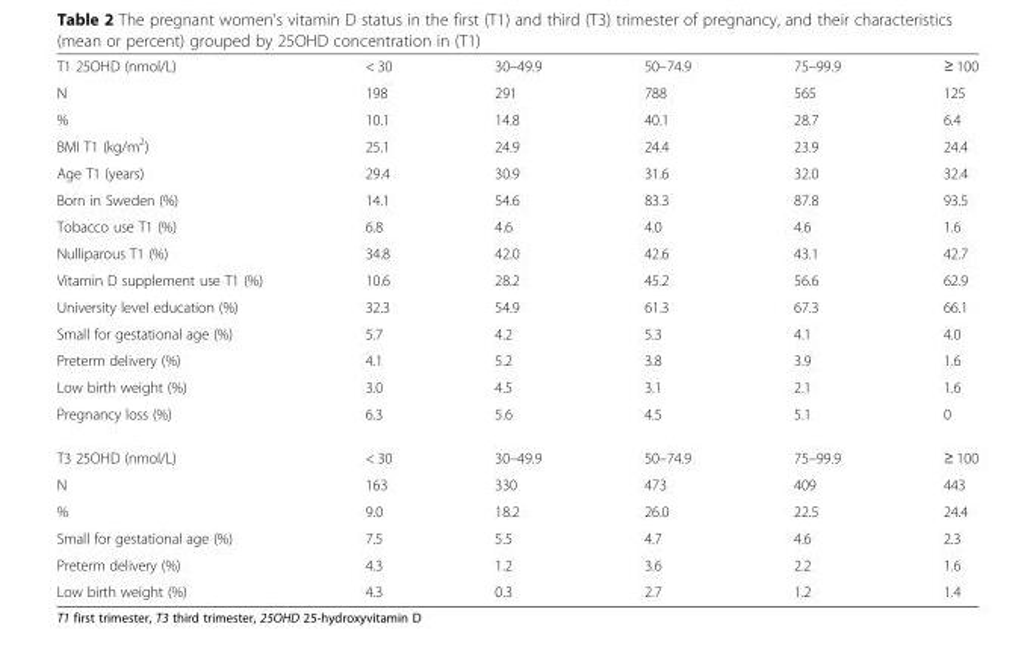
<table><tbody><tr><td>T1 25OHD (nmol/L)</td><td>&lt; 30</td><td>30–49.9</td><td>50–74.9</td><td>75–99.9</td><td>≥ 100</td></tr><tr><td>N</td><td>198</td><td>291</td><td>788</td><td>565</td><td>125</td></tr><tr><td>%</td><td>10.1</td><td>14.8</td><td>40.1</td><td>28.7</td><td>6.4</td></tr><tr><td>BMI T1 (kg/m<sup>2</sup>)</td><td>25.1</td><td>24.9</td><td>24.4</td><td>23.9</td><td>24.4</td></tr><tr><td>Age T1 (years)</td><td>29.4</td><td>30.9</td><td>31.6</td><td>32.0</td><td>32.4</td></tr><tr><td>Born in Sweden (%)</td><td>14.1</td><td>54.6</td><td>83.3</td><td>87.8</td><td>93.5</td></tr><tr><td>Tobacco use T1 (%)</td><td>6.8</td><td>4.6</td><td>4.0</td><td>4.6</td><td>1.6</td></tr><tr><td>Nulliparous T1 (%)</td><td>34.8</td><td>42.0</td><td>42.6</td><td>43.1</td><td>42.7</td></tr><tr><td>Vitamin D supplement use T1 (%)</td><td>10.6</td><td>28.2</td><td>45.2</td><td>56.6</td><td>62.9</td></tr><tr><td>University level education (%)</td><td>32.3</td><td>54.9</td><td>61.3</td><td>67.3</td><td>66.1</td></tr><tr><td>Small for gestational age (%)</td><td>5.7</td><td>4.2</td><td>5.3</td><td>4.1</td><td>4.0</td></tr><tr><td>Preterm delivery (%)</td><td>4.1</td><td>5.2</td><td>3.8</td><td>3.9</td><td>1.6</td></tr><tr><td>Low birth weight (%)</td><td>3.0</td><td>4.5</td><td>3.1</td><td>2.1</td><td>1.6</td></tr><tr><td>Pregnancy loss (%)</td><td>6.3</td><td>5.6</td><td>4.5</td><td>5.1</td><td>0</td></tr><tr><td>T3 25OHD (nmol/L)</td><td>&lt; 30</td><td>30–49.9</td><td>50–74.9</td><td>75–99.9</td><td>≥ 100</td></tr><tr><td>N</td><td>163</td><td>330</td><td>473</td><td>409</td><td>443</td></tr><tr><td>%</td><td>9.0</td><td>18.2</td><td>26.0</td><td>22.5</td><td>24.4</td></tr><tr><td>Small for gestational age (%)</td><td>7.5</td><td>5.5</td><td>4.7</td><td>4.6</td><td>2.3</td></tr><tr><td>Preterm delivery (%)</td><td>4.3</td><td>1.2</td><td>3.6</td><td>2.2</td><td>1.6</td></tr><tr><td>Low birth weight (%)</td><td>4.3</td><td>0.3</td><td>2.7</td><td>1.2</td><td>1.4</td></tr></tbody></table>